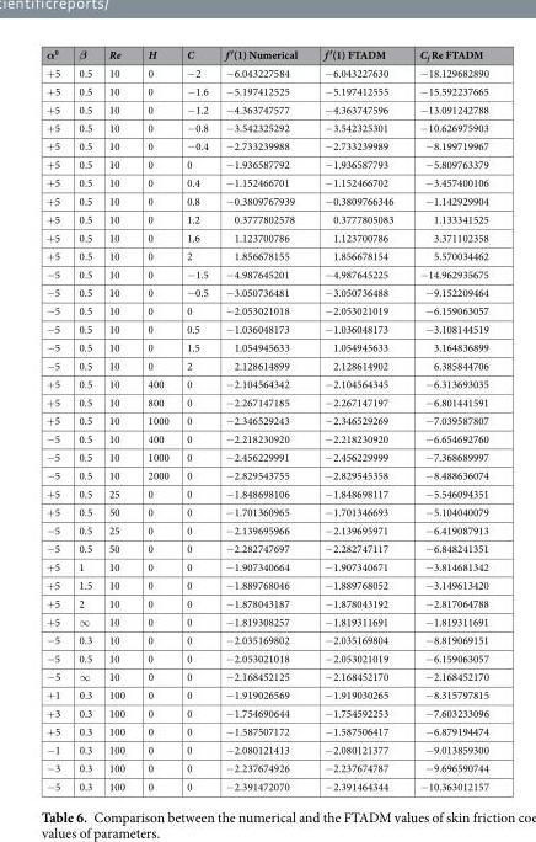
<table><thead><tr><td>α<sup>0</sup></td><td>β</td><td>Re</td><td>H</td><td>C</td><td>f ′(1) Numerical</td><td>f ′(1) FTADM</td><td>C<sub>f</sub> Re FTADM</td></tr></thead><tbody><tr><td>+5</td><td>0.5</td><td>10</td><td>0</td><td>−2</td><td>−6.043227584</td><td>−6.043227630</td><td>−18.129682890</td></tr><tr><td>+5</td><td>0.5</td><td>10</td><td>0</td><td>−1.6</td><td>−5.197412525</td><td>−5.197412555</td><td>−15.592237665</td></tr><tr><td>+5</td><td>0.5</td><td>10</td><td>0</td><td>−1.2</td><td>−4.363747577</td><td>−4.363747596</td><td>−13.091242788</td></tr><tr><td>+5</td><td>0.5</td><td>10</td><td>0</td><td>−0.8</td><td>−3.542325292</td><td>−3.542325301</td><td>−10.626975903</td></tr><tr><td>+5</td><td>0.5</td><td>10</td><td>0</td><td>−0.4</td><td>−2.733239988</td><td>−2.733239989</td><td>−8.199719967</td></tr><tr><td>+5</td><td>0.5</td><td>10</td><td>0</td><td>0</td><td>−1.936587792</td><td>−1.936587793</td><td>−5.809763379</td></tr><tr><td>+5</td><td>0.5</td><td>10</td><td>0</td><td>0.4</td><td>−1.152466701</td><td>−1.152466702</td><td>−3.457400106</td></tr><tr><td>+5</td><td>0.5</td><td>10</td><td>0</td><td>0.8</td><td>−0.3809767939</td><td>−0.3809766346</td><td>−1.142929904</td></tr><tr><td>+5</td><td>0.5</td><td>10</td><td>0</td><td>1.2</td><td>0.3777802578</td><td>0.3777805083</td><td>1.133341525</td></tr><tr><td>+5</td><td>0.5</td><td>10</td><td>0</td><td>1.6</td><td>1.123700786</td><td>1.123700786</td><td>3.371102358</td></tr><tr><td>+5</td><td>0.5</td><td>10</td><td>0</td><td>2</td><td>1.856678155</td><td>1.856678154</td><td>5.570034462</td></tr><tr><td>−5</td><td>0.5</td><td>10</td><td>0</td><td>−1.5</td><td>−4.987645201</td><td>−4.987645225</td><td>−14.962935675</td></tr><tr><td>−5</td><td>0.5</td><td>10</td><td>0</td><td>−0.5</td><td>−3.050736481</td><td>−3.050736488</td><td>−9.152209464</td></tr><tr><td>−5</td><td>0.5</td><td>10</td><td>0</td><td>0</td><td>−2.053021018</td><td>−2.053021019</td><td>−6.159063057</td></tr><tr><td>−5</td><td>0.5</td><td>10</td><td>0</td><td>0.5</td><td>−1.036048173</td><td>−1.036048173</td><td>−3.108144519</td></tr><tr><td>−5</td><td>0.5</td><td>10</td><td>0</td><td>1.5</td><td>1.054945633</td><td>1.054945633</td><td>3.164836899</td></tr><tr><td>−5</td><td>0.5</td><td>10</td><td>0</td><td>2</td><td>2.128614899</td><td>2.128614902</td><td>6.385844706</td></tr><tr><td>+5</td><td>0.5</td><td>10</td><td>400</td><td>0</td><td>−2.104564342</td><td>−2.104564345</td><td>−6.313693035</td></tr><tr><td>+5</td><td>0.5</td><td>10</td><td>800</td><td>0</td><td>−2.267147185</td><td>−2.267147197</td><td>−6.801441591</td></tr><tr><td>+5</td><td>0.5</td><td>10</td><td>1000</td><td>0</td><td>−2.346529243</td><td>−2.346529269</td><td>−7.039587807</td></tr><tr><td>−5</td><td>0.5</td><td>10</td><td>400</td><td>0</td><td>−2.218230920</td><td>−2.218230920</td><td>−6.654692760</td></tr><tr><td>−5</td><td>0.5</td><td>10</td><td>1000</td><td>0</td><td>−2.456229991</td><td>−2.456229999</td><td>−7.368689997</td></tr><tr><td>−5</td><td>0.5</td><td>10</td><td>2000</td><td>0</td><td>−2.829543755</td><td>−2.829545358</td><td>−8.488636074</td></tr><tr><td>+5</td><td>0.5</td><td>25</td><td>0</td><td>0</td><td>−1.848698106</td><td>−1.848698117</td><td>−5.546094351</td></tr><tr><td>+5</td><td>0.5</td><td>50</td><td>0</td><td>0</td><td>−1.701360965</td><td>−1.701346693</td><td>−5.104040079</td></tr><tr><td>−5</td><td>0.5</td><td>25</td><td>0</td><td>0</td><td>−2.139695966</td><td>−2.139695971</td><td>−6.419087913</td></tr><tr><td>−5</td><td>0.5</td><td>50</td><td>0</td><td>0</td><td>−2.282747697</td><td>−2.282747117</td><td>−6.848241351</td></tr><tr><td>+5</td><td>1</td><td>10</td><td>0</td><td>0</td><td>−1.907340664</td><td>−1.907340671</td><td>−3.814681342</td></tr><tr><td>+5</td><td>1.5</td><td>10</td><td>0</td><td>0</td><td>−1.889768046</td><td>−1.889768052</td><td>−3.149613420</td></tr><tr><td>+5</td><td>2</td><td>10</td><td>0</td><td>0</td><td>−1.878043187</td><td>−1.878043192</td><td>−2.817064788</td></tr><tr><td>+5</td><td>∞</td><td>10</td><td>0</td><td>0</td><td>−1.819308257</td><td>−1.819311691</td><td>−1.819311691</td></tr><tr><td>−5</td><td>0.3</td><td>10</td><td>0</td><td>0</td><td>−2.035169802</td><td>−2.035169804</td><td>−8.819069151</td></tr><tr><td>−5</td><td>0.5</td><td>10</td><td>0</td><td>0</td><td>−2.053021018</td><td>−2.053021019</td><td>−6.159063057</td></tr><tr><td>−5</td><td>∞</td><td>10</td><td>0</td><td>0</td><td>−2.168452125</td><td>−2.168452170</td><td>−2.168452170</td></tr><tr><td>+1</td><td>0.3</td><td>100</td><td>0</td><td>0</td><td>−1.919026569</td><td>−1.919030265</td><td>−8.315797815</td></tr><tr><td>+3</td><td>0.3</td><td>100</td><td>0</td><td>0</td><td>−1.754690644</td><td>−1.754592253</td><td>−7.603233096</td></tr><tr><td>+5</td><td>0.3</td><td>100</td><td>0</td><td>0</td><td>−1.587507172</td><td>−1.587506417</td><td>−6.879194474</td></tr><tr><td>−1</td><td>0.3</td><td>100</td><td>0</td><td>0</td><td>−2.080121413</td><td>−2.080121377</td><td>−9.013859300</td></tr><tr><td>−3</td><td>0.3</td><td>100</td><td>0</td><td>0</td><td>−2.237674926</td><td>−2.237674787</td><td>−9.696590744</td></tr><tr><td>−5</td><td>0.3</td><td>100</td><td>0</td><td>0</td><td>−2.391472070</td><td>−2.391464344</td><td>−10.363012157</td></tr></tbody></table>